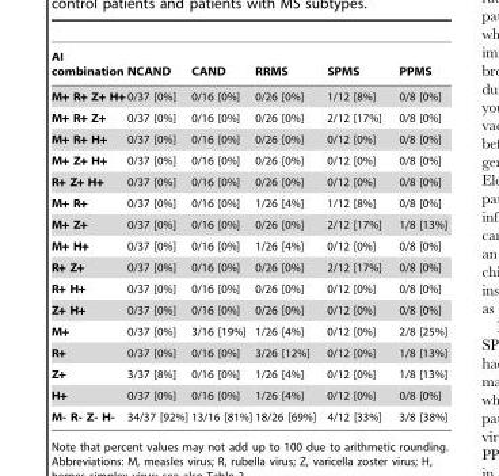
<table><thead><tr><td>AI combination</td><td>NCAND</td><td>CAND</td><td>RRMS</td><td>SPMS</td><td>PPMS</td></tr></thead><tbody><tr><td>M+ R+ Z+ H+</td><td>0/37 [0%]</td><td>0/16 [0%]</td><td>0/26 [0%]</td><td>1/12 [8%]</td><td>0/8 [0%]</td></tr><tr><td>M+ R+ Z+</td><td>0/37 [0%]</td><td>0/16 [0%]</td><td>0/26 [0%]</td><td>2/12 [17%]</td><td>0/8 [0%]</td></tr><tr><td>M+ R+ H+</td><td>0/37 [0%]</td><td>0/16 [0%]</td><td>0/26 [0%]</td><td>0/12 [0%]</td><td>0/8 [0%]</td></tr><tr><td>M+ Z+ H+</td><td>0/37 [0%]</td><td>0/16 [0%]</td><td>0/26 [0%]</td><td>0/12 [0%]</td><td>0/8 [0%]</td></tr><tr><td>R+ Z+ H+</td><td>0/37 [0%]</td><td>0/16 [0%]</td><td>0/26 [0%]</td><td>0/12 [0%]</td><td>0/8 [0%]</td></tr><tr><td>M+ R+</td><td>0/37 [0%]</td><td>0/16 [0%]</td><td>1/26 [4%]</td><td>1/12 [8%]</td><td>0/8 [0%]</td></tr><tr><td>M+ Z+</td><td>0/37 [0%]</td><td>0/16 [0%]</td><td>0/26 [0%]</td><td>2/12 [17%]</td><td>1/8 [13%]</td></tr><tr><td>M+ H+</td><td>0/37 [0%]</td><td>0/16 [0%]</td><td>1/26 [4%]</td><td>0/12 [0%]</td><td>0/8 [0%]</td></tr><tr><td>R+ Z+</td><td>0/37 [0%]</td><td>0/16 [0%]</td><td>0/26 [0%]</td><td>2/12 [17%]</td><td>0/8 [0%]</td></tr><tr><td>R+ H+</td><td>0/37 [0%]</td><td>0/16 [0%]</td><td>0/26 [0%]</td><td>0/12 [0%]</td><td>0/8 [0%]</td></tr><tr><td>Z+ H+</td><td>0/37 [0%]</td><td>0/16 [0%]</td><td>0/26 [0%]</td><td>0/12 [0%]</td><td>0/8 [0%]</td></tr><tr><td>M+</td><td>0/37 [0%]</td><td>3/16 [19%]</td><td>1/26 [4%]</td><td>0/12 [0%]</td><td>2/8 [25%]</td></tr><tr><td>R+</td><td>0/37 [0%]</td><td>0/16 [0%]</td><td>3/26 [12%]</td><td>0/12 [0%]</td><td>1/8 [13%]</td></tr><tr><td>Z+</td><td>3/37 [8%]</td><td>0/16 [0%]</td><td>1/26 [4%]</td><td>0/12 [0%]</td><td>1/8 [13%]</td></tr><tr><td>H+</td><td>0/37 [0%]</td><td>0/16 [0%]</td><td>1/26 [4%]</td><td>0/12 [0%]</td><td>0/8 [0%]</td></tr><tr><td>M- R- Z- H-</td><td>34/37 [92%]</td><td>13/16 [81%]</td><td>18/26 [69%]</td><td>4/12 [33%]</td><td>3/8 [38%]</td></tr></tbody></table>